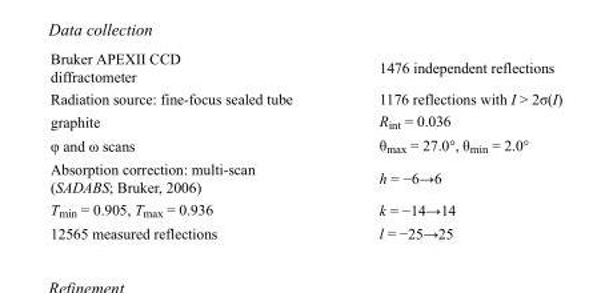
<table><tbody><tr><td>Bruker APEXII CCD diffractometer</td><td>1476 independent reflections</td></tr><tr><td>Radiation source: fine-focus sealed tube</td><td>1176 reflections with I &gt; 2σ(I)</td></tr><tr><td>graphite</td><td>R<sub>int</sub> = 0.036</td></tr><tr><td>φ and ω scans</td><td>θ<sub>max</sub> = 27.0°, θ<sub>min</sub> = 2.0°</td></tr><tr><td>Absorption correction: multi-scan (SADABS; Bruker, 2006)</td><td>h = −6→6</td></tr><tr><td>T<sub>min</sub> = 0.905, T<sub>max</sub> = 0.936</td><td>k = −14→14</td></tr><tr><td>12565 measured reflections</td><td>l = −25→25</td></tr></tbody></table>